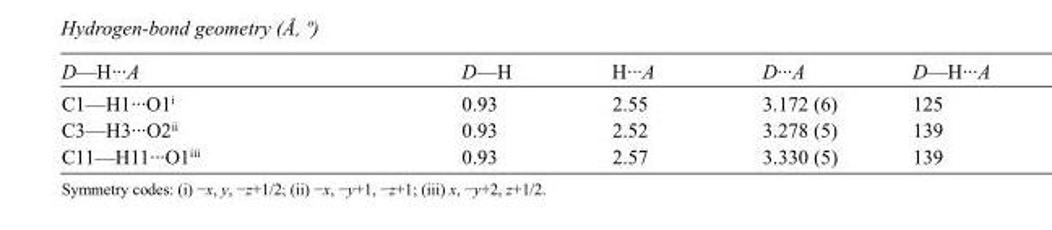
<table><tbody><tr><td>D—H···A</td><td>D—H</td><td>H···A</td><td>D···A</td><td>D—H···A</td></tr><tr><td>C1—H1···O1<sup>i</sup></td><td>0.93</td><td>2.55</td><td>3.172 (6)</td><td>125</td></tr><tr><td>C3—H3···O2<sup>ii</sup></td><td>0.93</td><td>2.52</td><td>3.278 (5)</td><td>139</td></tr><tr><td>C11—H11···O1<sup>iii</sup></td><td>0.93</td><td>2.57</td><td>3.330 (5)</td><td>139</td></tr></tbody></table>